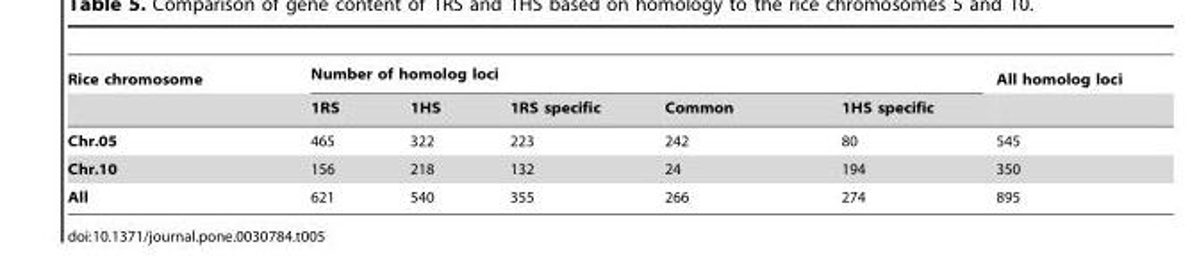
<table><thead><tr><td rowspan="2">Rice chromosome</td><td colspan="5">Number of homolog loci</td><td rowspan="2">All homolog loci</td></tr><tr><td>1RS</td><td>1HS</td><td>1RS specific</td><td>Common</td><td>1HS specific</td></tr></thead><tbody><tr><td>Chr.05</td><td>465</td><td>322</td><td>223</td><td>242</td><td>80</td><td>545</td></tr><tr><td>Chr.10</td><td>156</td><td>218</td><td>132</td><td>24</td><td>194</td><td>350</td></tr><tr><td>All</td><td>621</td><td>540</td><td>355</td><td>266</td><td>274</td><td>895</td></tr></tbody></table>